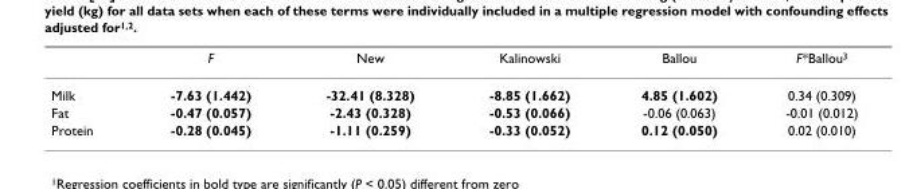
<table><thead><tr><td></td><td>F</td><td>New</td><td>Kalinowski</td><td>Ballou</td><td>F*Ballou<sup>3</sup></td></tr></thead><tbody><tr><td>Milk</td><td>-7.63 (1.442)</td><td>-32.41 (8.328)</td><td>-8.85 (1.662)</td><td>4.85 (1.602)</td><td>0.34 (0.309)</td></tr><tr><td>Fat</td><td>-0.47 (0.057)</td><td>-2.43 (0.328)</td><td>-0.53 (0.066)</td><td>-0.06 (0.063)</td><td>-0.01 (0.012)</td></tr><tr><td>Protein</td><td>-0.28 (0.045)</td><td>-1.11 (0.259)</td><td>-0.33 (0.052)</td><td>0.12 (0.050)</td><td>0.02 (0.010)</td></tr></tbody></table>